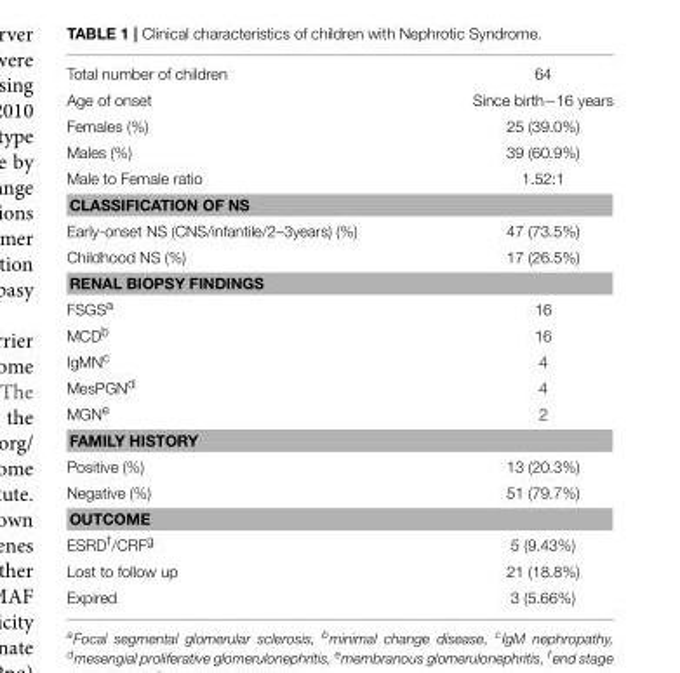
<table><tbody><tr><td>Total number of children</td><td>64</td></tr><tr><td>Age of onset</td><td>Since birth−16 years</td></tr><tr><td>Females (%)</td><td>25 (39.0%)</td></tr><tr><td>Males (%)</td><td>39 (60.9%)</td></tr><tr><td>Male to Female ratio</td><td>1.52:1</td></tr><tr><td colspan="2">CLASSIFICATION OF NS</td></tr><tr><td>Early-onset NS (CNS/infantile/2–3years) (%)</td><td>47 (73.5%)</td></tr><tr><td>Childhood NS (%)</td><td>17 (26.5%)</td></tr><tr><td colspan="2">RENAL BIOPSY FINDINGS</td></tr><tr><td>FSGS<sup>a</sup></td><td>16</td></tr><tr><td>MCD<sup>b</sup></td><td>16</td></tr><tr><td>IgMN<sup>c</sup></td><td>4</td></tr><tr><td>MesPGN<sup>d</sup></td><td>4</td></tr><tr><td>MGN<sup>e</sup></td><td>2</td></tr><tr><td colspan="2">FAMILY HISTORY</td></tr><tr><td>Positive (%)</td><td>13 (20.3%)</td></tr><tr><td>Negative (%)</td><td>51 (79.7%)</td></tr><tr><td colspan="2">OUTCOME</td></tr><tr><td>ESRD<sup>f</sup>/CRF<sup>g</sup></td><td>5 (9.43%)</td></tr><tr><td>Lost to follow up</td><td>21 (18.8%)</td></tr><tr><td>Expired</td><td>3 (5.66%)</td></tr></tbody></table>